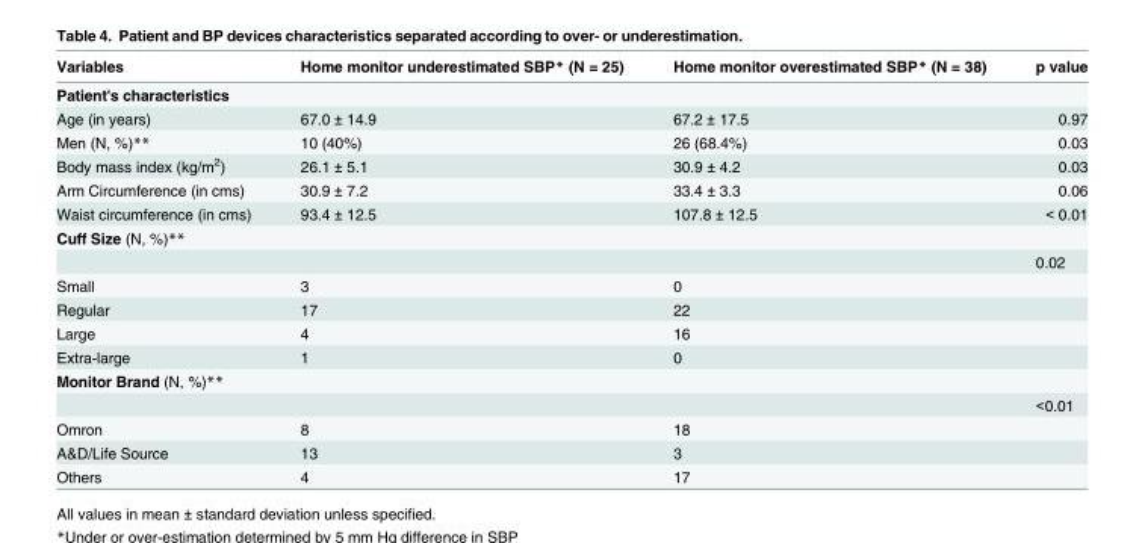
<table><thead><tr><td>Variables</td><td>Home monitor underestimated SBP* (N = 25)</td><td>Home monitor overestimated SBP* (N = 38)</td><td>p value</td></tr></thead><tbody><tr><td colspan="4">Patient&#x27;s characteristics</td></tr><tr><td>Age (in years)</td><td>67.0 ± 14.9</td><td>67.2 ± 17.5</td><td>0.97</td></tr><tr><td>Men (N, %)**</td><td>10 (40%)</td><td>26 (68.4%)</td><td>0.03</td></tr><tr><td>Body mass index (kg/m<sup>2</sup>)</td><td>26.1 ± 5.1</td><td>30.9 ± 4.2</td><td>0.03</td></tr><tr><td>Arm Circumference (in cms)</td><td>30.9 ± 7.2</td><td>33.4 ± 3.3</td><td>0.06</td></tr><tr><td>Waist circumference (in cms)</td><td>93.4 ± 12.5</td><td>107.8 ± 12.5</td><td>&lt; 0.01</td></tr><tr><td colspan="4">Cuff Size (N, %)**</td></tr><tr><td></td><td></td><td></td><td>0.02</td></tr><tr><td>Small</td><td>3</td><td>0</td><td></td></tr><tr><td>Regular</td><td>17</td><td>22</td><td></td></tr><tr><td>Large</td><td>4</td><td>16</td><td></td></tr><tr><td>Extra-large</td><td>1</td><td>0</td><td></td></tr><tr><td colspan="4">Monitor Brand (N, %)**</td></tr><tr><td></td><td></td><td></td><td>&lt;0.01</td></tr><tr><td>Omron</td><td>8</td><td>18</td><td></td></tr><tr><td>A&amp;D/Life Source</td><td>13</td><td>3</td><td></td></tr><tr><td>Others</td><td>4</td><td>17</td><td></td></tr></tbody></table>